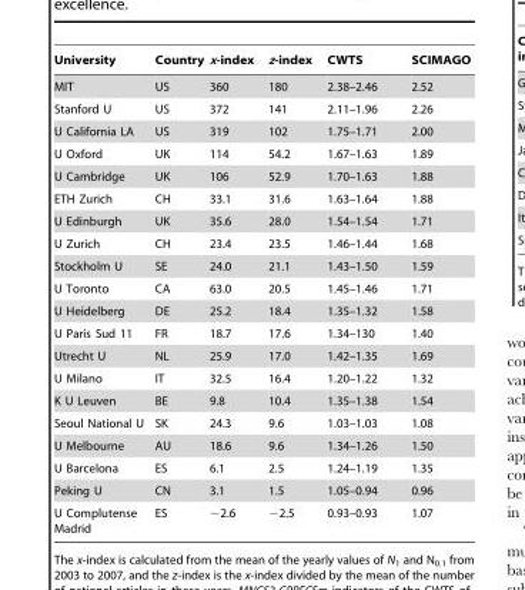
<table><thead><tr><td>University</td><td>Country</td><td>x-index</td><td>z-index</td><td>CWTS</td><td>SCIMAGO</td></tr></thead><tbody><tr><td>MIT</td><td>US</td><td>360</td><td>180</td><td>2.38–2.46</td><td>2.52</td></tr><tr><td>Stanford U</td><td>US</td><td>372</td><td>141</td><td>2.11–1.96</td><td>2.26</td></tr><tr><td>U California LA</td><td>US</td><td>319</td><td>102</td><td>1.75–1.71</td><td>2.00</td></tr><tr><td>U Oxford</td><td>UK</td><td>114</td><td>54.2</td><td>1.67–1.63</td><td>1.89</td></tr><tr><td>U Cambridge</td><td>UK</td><td>106</td><td>52.9</td><td>1.70–1.63</td><td>1.88</td></tr><tr><td>ETH Zurich</td><td>CH</td><td>33.1</td><td>31.6</td><td>1.63–1.64</td><td>1.88</td></tr><tr><td>U Edinburgh</td><td>UK</td><td>35.6</td><td>28.0</td><td>1.54–1.54</td><td>1.71</td></tr><tr><td>U Zurich</td><td>CH</td><td>23.4</td><td>23.5</td><td>1.46–1.44</td><td>1.68</td></tr><tr><td>Stockholm U</td><td>SE</td><td>24.0</td><td>21.1</td><td>1.43–1.50</td><td>1.59</td></tr><tr><td>U Toronto</td><td>CA</td><td>63.0</td><td>20.5</td><td>1.45–1.46</td><td>1.71</td></tr><tr><td>U Heidelberg</td><td>DE</td><td>25.2</td><td>18.4</td><td>1.35–1.32</td><td>1.58</td></tr><tr><td>U Paris Sud 11</td><td>FR</td><td>18.7</td><td>17.6</td><td>1.34–130</td><td>1.40</td></tr><tr><td>Utrecht U</td><td>NL</td><td>25.9</td><td>17.0</td><td>1.42–1.35</td><td>1.69</td></tr><tr><td>U Milano</td><td>IT</td><td>32.5</td><td>16.4</td><td>1.20–1.22</td><td>1.32</td></tr><tr><td>K U Leuven</td><td>BE</td><td>9.8</td><td>10.4</td><td>1.35–1.38</td><td>1.54</td></tr><tr><td>Seoul National U</td><td>SK</td><td>24.3</td><td>9.6</td><td>1.03–1.03</td><td>1.08</td></tr><tr><td>U Melbourne</td><td>AU</td><td>18.6</td><td>9.6</td><td>1.34–1.26</td><td>1.50</td></tr><tr><td>U Barcelona</td><td>ES</td><td>6.1</td><td>2.5</td><td>1.24–1.19</td><td>1.35</td></tr><tr><td>Peking U</td><td>CN</td><td>3.1</td><td>1.5</td><td>1.05–0.94</td><td>0.96</td></tr><tr><td>U Complutense Madrid</td><td>ES</td><td>−2.6</td><td>−2.5</td><td>0.93–0.93</td><td>1.07</td></tr></tbody></table>